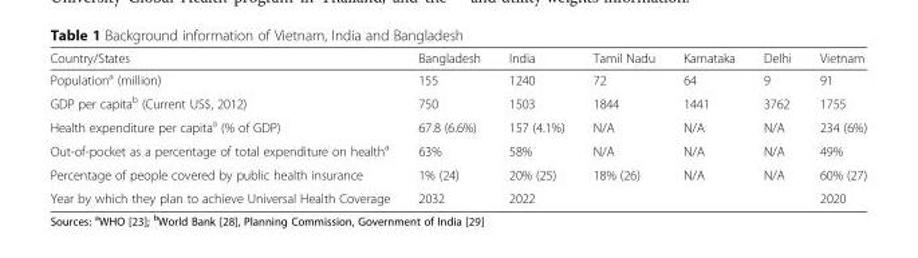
<table><thead><tr><td>Country/States</td><td>Bangladesh</td><td>India</td><td>Tamil Nadu</td><td>Karnataka</td><td>Delhi</td><td>Vietnam</td></tr></thead><tbody><tr><td>Population<sup>a</sup> (million)</td><td>155</td><td>1240</td><td>72</td><td>64</td><td>9</td><td>91</td></tr><tr><td>GDP per capita<sup>b</sup> (Current US$, 2012)</td><td>750</td><td>1503</td><td>1844</td><td>1441</td><td>3762</td><td>1755</td></tr><tr><td>Health expenditure per capita<sup>a</sup> (% of GDP)</td><td>67.8 (6.6%)</td><td>157 (4.1%)</td><td>N/A</td><td>N/A</td><td>N/A</td><td>234 (6%)</td></tr><tr><td>Out-of-pocket as a percentage of total expenditure on health<sup>a</sup></td><td>63%</td><td>58%</td><td>N/A</td><td>N/A</td><td>N/A</td><td>49%</td></tr><tr><td>Percentage of people covered by public health insurance</td><td>1% (24)</td><td>20% (25)</td><td>18% (26)</td><td>N/A</td><td>N/A</td><td>60% (27)</td></tr><tr><td>Year by which they plan to achieve Universal Health Coverage</td><td>2032</td><td colspan="4">2022</td><td>2020</td></tr></tbody></table>